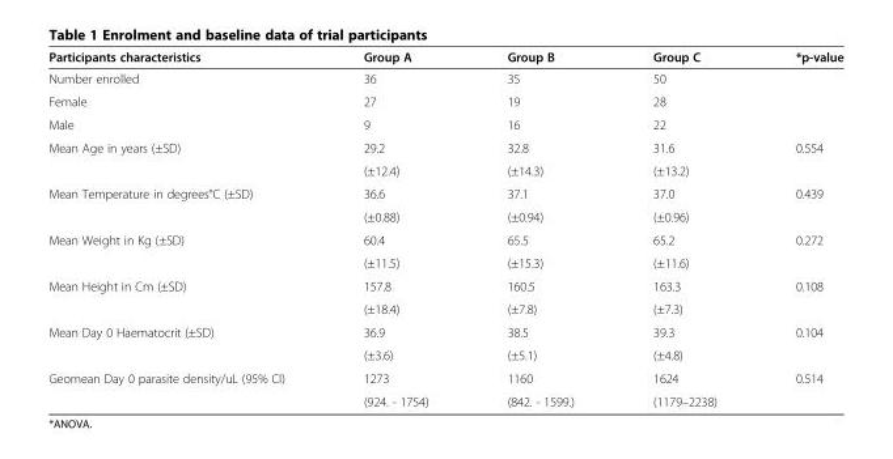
<table><thead><tr><td>Participants characteristics</td><td>Group A</td><td>Group B</td><td>Group C</td><td>*p-value</td></tr></thead><tbody><tr><td>Number enrolled</td><td>36</td><td>35</td><td>50</td><td></td></tr><tr><td>Female</td><td>27</td><td>19</td><td>28</td><td></td></tr><tr><td>Male</td><td>9</td><td>16</td><td>22</td><td></td></tr><tr><td rowspan="2">Mean Age in years (±SD)</td><td>29.2</td><td>32.8</td><td>31.6</td><td rowspan="2">0.554</td></tr><tr><td>(±12.4)</td><td>(±14.3)</td><td>(±13.2)</td></tr><tr><td rowspan="2">Mean Temperature in degrees°C (±SD)</td><td>36.6</td><td>37.1</td><td>37.0</td><td rowspan="2">0.439</td></tr><tr><td>(±0.88)</td><td>(±0.94)</td><td>(±0.96)</td></tr><tr><td rowspan="2">Mean Weight in Kg (±SD)</td><td>60.4</td><td>65.5</td><td>65.2</td><td rowspan="2">0.272</td></tr><tr><td>(±11.5)</td><td>(±15.3)</td><td>(±11.6)</td></tr><tr><td rowspan="2">Mean Height in Cm (±SD)</td><td>157.8</td><td>160.5</td><td>163.3</td><td rowspan="2">0.108</td></tr><tr><td>(±18.4)</td><td>(±7.8)</td><td>(±7.3)</td></tr><tr><td rowspan="2">Mean Day 0 Haematocrit (±SD)</td><td>36.9</td><td>38.5</td><td>39.3</td><td rowspan="2">0.104</td></tr><tr><td>(±3.6)</td><td>(±5.1)</td><td>(±4.8)</td></tr><tr><td rowspan="2">Geomean Day 0 parasite density/uL (95% CI)</td><td>1273</td><td>1160</td><td>1624</td><td rowspan="2">0.514</td></tr><tr><td>(924. - 1754)</td><td>(842. - 1599.)</td><td>(1179–2238)</td></tr></tbody></table>